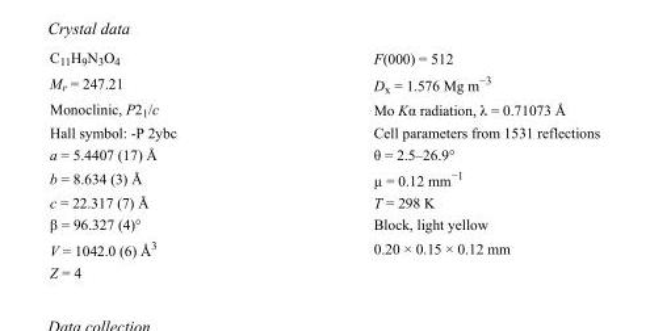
<table><tbody><tr><td>C<sub>11</sub>H<sub>9</sub>N<sub>3</sub>O<sub>4</sub></td><td>F(000) = 512</td></tr><tr><td>M<sub>r</sub> = 247.21</td><td>D<sub>x</sub> = 1.576 Mg m<sup>−3</sup></td></tr><tr><td>Monoclinic, P2<sub>1</sub>/c</td><td>Mo Kα radiation, λ = 0.71073 Å</td></tr><tr><td>Hall symbol: -P 2ybc</td><td>Cell parameters from 1531 reflections</td></tr><tr><td>a = 5.4407 (17) Å</td><td>θ = 2.5–26.9°</td></tr><tr><td>b = 8.634 (3) Å</td><td>µ = 0.12 mm<sup>−1</sup></td></tr><tr><td>c = 22.317 (7) Å</td><td>T = 298 K</td></tr><tr><td>β = 96.327 (4)°</td><td>Block, light yellow</td></tr><tr><td>V = 1042.0 (6) Å<sup>3</sup></td><td>0.20 × 0.15 × 0.12 mm</td></tr><tr><td>Z = 4</td><td></td></tr></tbody></table>